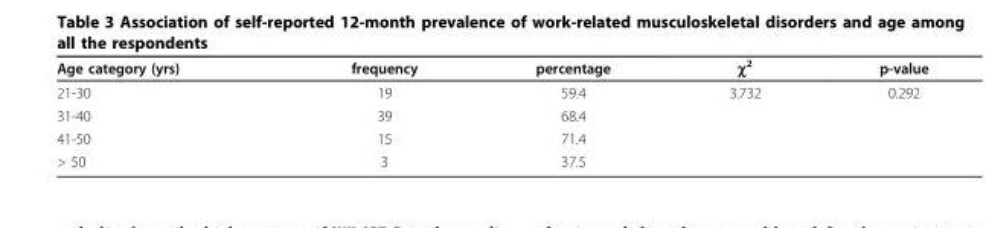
<table><thead><tr><td>Age category (yrs)</td><td>frequency</td><td>percentage</td><td>χ<sup>2</sup></td><td>p-value</td></tr></thead><tbody><tr><td>21-30</td><td>19</td><td>59.4</td><td>3.732</td><td>0.292</td></tr><tr><td>31-40</td><td>39</td><td>68.4</td><td></td><td></td></tr><tr><td>41-50</td><td>15</td><td>71.4</td><td></td><td></td></tr><tr><td>&gt; 50</td><td>3</td><td>37.5</td><td></td><td></td></tr></tbody></table>